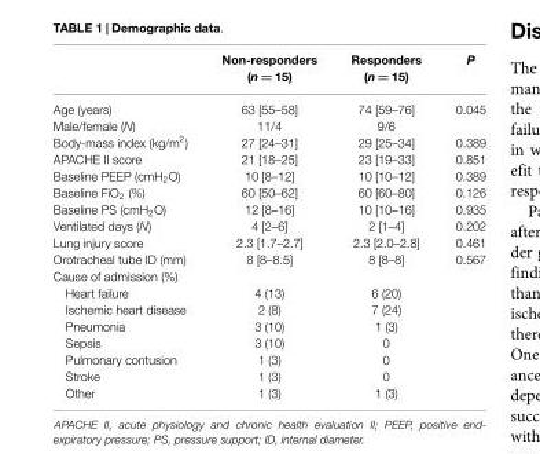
<table><thead><tr><td></td><td>Non-responders (n = 15)</td><td>Responders (n = 15)</td><td>P</td></tr></thead><tbody><tr><td>Age (years)</td><td>63 [55–58]</td><td>74 [59–76]</td><td>0.045</td></tr><tr><td>Male/female (N)</td><td>11/4</td><td>9/6</td><td></td></tr><tr><td>Body-mass index (kg/m<sup>2</sup>)</td><td>27 [24–31]</td><td>29 [25–34]</td><td>0.389</td></tr><tr><td>APACHE II score</td><td>21 [18–25]</td><td>23 [19–33]</td><td>0.851</td></tr><tr><td>Baseline PEEP (cmH<sub>2</sub>O)</td><td>10 [8–12]</td><td>10 [10–12]</td><td>0.389</td></tr><tr><td>Baseline FiO<sub>2</sub> (%)</td><td>60 [50–62]</td><td>60 [60–80]</td><td>0.126</td></tr><tr><td>Baseline PS (cmH<sub>2</sub>O)</td><td>12 [8–16]</td><td>10 [10–16]</td><td>0.935</td></tr><tr><td>Ventilated days (N)</td><td>4 [2–6]</td><td>2 [1–4]</td><td>0.202</td></tr><tr><td>Lung injury score</td><td>2.3 [1.7–2.7]</td><td>2.3 [2.0–2.8]</td><td>0.461</td></tr><tr><td>Orotracheal tube ID (mm)</td><td>8 [8–8.5]</td><td>8 [8–8]</td><td>0.567</td></tr><tr><td colspan="4">Cause of admission (%)</td></tr><tr><td>Heart failure</td><td>4 (13)</td><td>6 (20)</td><td></td></tr><tr><td>Ischemic heart disease</td><td>2 (8)</td><td>7 (24)</td><td></td></tr><tr><td>Pneumonia</td><td>3 (10)</td><td>1 (3)</td><td></td></tr><tr><td>Sepsis</td><td>3 (10)</td><td>0</td><td></td></tr><tr><td>Pulmonary contusion</td><td>1 (3)</td><td>0</td><td></td></tr><tr><td>Stroke</td><td>1 (3)</td><td>0</td><td></td></tr><tr><td>Other</td><td>1 (3)</td><td>1 (3)</td><td></td></tr></tbody></table>